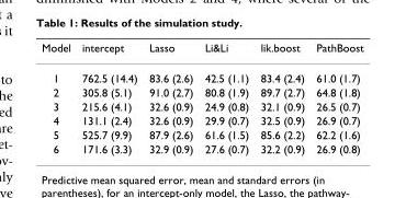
<table><thead><tr><td>Model</td><td>intercept</td><td>Lasso</td><td>Li&amp;Li</td><td>lik.boost</td><td>PathBoost</td></tr></thead><tbody><tr><td>1</td><td>762.5 (14.4)</td><td>83.6 (2.6)</td><td>42.5 (1.1)</td><td>83.4 (2.4)</td><td>61.0 (1.7)</td></tr><tr><td>2</td><td>305.8 (5.1)</td><td>91.0 (2.7)</td><td>80.8 (1.9)</td><td>89.7 (2.7)</td><td>64.8 (1.8)</td></tr><tr><td>3</td><td>215.6 (4.1)</td><td>32.6 (0.9)</td><td>24.9 (0.8)</td><td>32.1 (0.9)</td><td>26.5 (0.7)</td></tr><tr><td>4</td><td>131.1 (2.4)</td><td>32.6 (0.9)</td><td>29.9 (0.7)</td><td>32.5 (0.9)</td><td>26.9 (0.7)</td></tr><tr><td>5</td><td>525.7 (9.9)</td><td>87.9 (2.6)</td><td>61.6 (1.5)</td><td>85.6 (2.2)</td><td>62.2 (1.6)</td></tr><tr><td>6</td><td>171.6 (3.3)</td><td>32.9 (0.9)</td><td>27.6 (0.7)</td><td>32.2 (0.9)</td><td>26.9 (0.8)</td></tr></tbody></table>